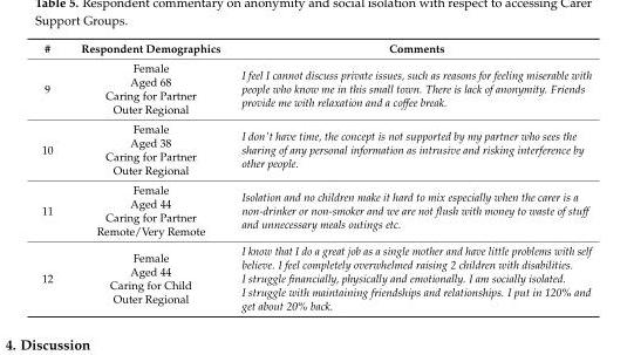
<table><thead><tr><td>#</td><td>Respondent Demographics</td><td>Comments</td></tr></thead><tbody><tr><td>9</td><td>Female Aged 68 Caring for Partner Outer Regional</td><td>I feel I cannot discuss private issues, such as reasons for feeling miserable with people who know me in this small town. There is lack of anonymity. Friends provide me with relaxation and a coffee break.</td></tr><tr><td>10</td><td>Female Aged 38 Caring for Partner Outer Regional</td><td>I don&#x27;t have time, the concept is not supported by my partner who sees the sharing of any personal information as intrusive and risking interference by other people.</td></tr><tr><td>11</td><td>Female Aged 44 Caring for Partner Remote/Very Remote</td><td>Isolation and no children make it hard to mix especially when the carer is a non-drinker or non-smoker and we are not flush with money to waste of stuff and unnecessary meals outings etc.</td></tr><tr><td>12</td><td>Female Aged 44 Caring for Child Outer Regional</td><td>I know that I do a great job as a single mother and have little problems with self believe. I feel completely overwhelmed raising 2 children with disabilities. I struggle financially, physically and emotionally. I am socially isolated. I struggle with maintaining friendships and relationships. I put in 120% and get about 20% back.</td></tr></tbody></table>